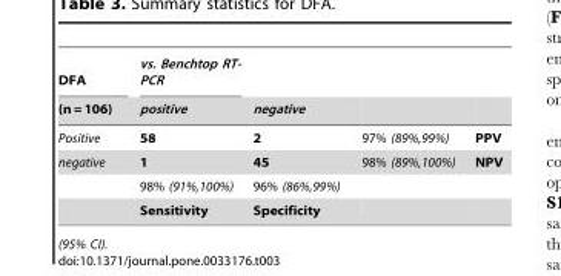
<table><thead><tr><td rowspan="2">DFA (n = 106)</td><td rowspan="2">vs. Benchtop RT- PCR positive</td><td rowspan="2">negative</td><td rowspan="2"></td><td rowspan="2"></td></tr><tr></tr></thead><tbody><tr><td>Positive</td><td>58</td><td>2</td><td>97% (89%,99%)</td><td>PPV</td></tr><tr><td rowspan="3">negative</td><td>1</td><td>45</td><td>98% (89%,100%)</td><td>NPV</td></tr><tr><td>98% (91%,100%)</td><td>96% (86%,99%)</td><td></td><td></td></tr><tr><td>Sensitivity</td><td>Specificity</td><td></td><td></td></tr></tbody></table>